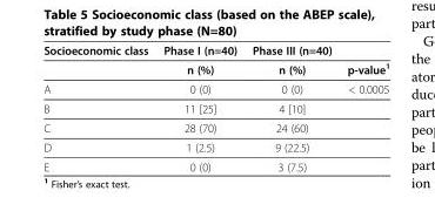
<table><thead><tr><td>Socioeconomic class</td><td>Phase I (n=40)</td><td>Phase III (n=40)</td><td></td></tr></thead><tbody><tr><td></td><td>n (%)</td><td>n (%)</td><td>p-value<sup>1</sup></td></tr><tr><td>A</td><td>0 (0)</td><td>0 (0)</td><td>&lt; 0.0005</td></tr><tr><td>B</td><td>11 [25]</td><td>4 [10]</td><td></td></tr><tr><td>C</td><td>28 (70)</td><td>24 (60)</td><td></td></tr><tr><td>D</td><td>1 (2.5)</td><td>9 (22.5)</td><td></td></tr><tr><td>E</td><td>0 (0)</td><td>3 (7.5)</td><td></td></tr></tbody></table>